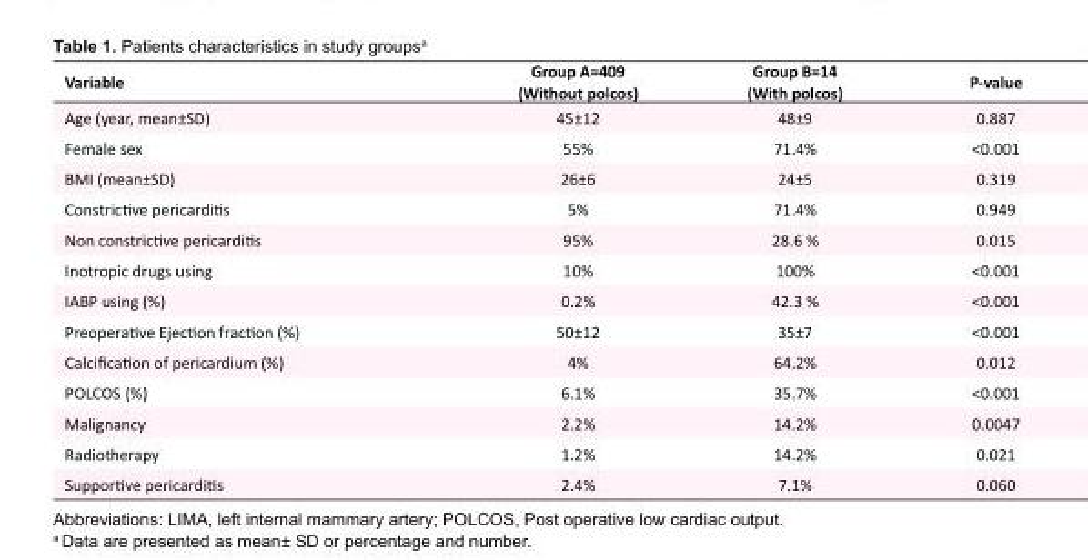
<table><tbody><tr><td>Variable</td><td>Group A=409 (Without polcos)</td><td>Group B=14 (With polcos)</td><td>P-value</td></tr><tr><td>Age (year, mean±SD)</td><td>45±12</td><td>48±9</td><td>0.887</td></tr><tr><td>Female sex</td><td>55%</td><td>71.4%</td><td>&lt;0.001</td></tr><tr><td>BMI (mean±SD)</td><td>26±6</td><td>24±5</td><td>0.319</td></tr><tr><td>Constrictive pericarditis</td><td>5%</td><td>71.4%</td><td>0.949</td></tr><tr><td>Non constrictive pericarditis</td><td>95%</td><td>28.6 %</td><td>0.015</td></tr><tr><td>Inotropic drugs using</td><td>10%</td><td>100%</td><td>&lt;0.001</td></tr><tr><td>IABP using (%)</td><td>0.2%</td><td>42.3 %</td><td>&lt;0.001</td></tr><tr><td>Preoperative Ejection fraction (%)</td><td>50±12</td><td>35±7</td><td>&lt;0.001</td></tr><tr><td>Calcification of pericardium (%)</td><td>4%</td><td>64.2%</td><td>0.012</td></tr><tr><td>POLCOS (%)</td><td>6.1%</td><td>35.7%</td><td>&lt;0.001</td></tr><tr><td>Malignancy</td><td>2.2%</td><td>14.2%</td><td>0.0047</td></tr><tr><td>Radiotherapy</td><td>1.2%</td><td>14.2%</td><td>0.021</td></tr><tr><td>Supportive pericarditis</td><td>2.4%</td><td>7.1%</td><td>0.060</td></tr></tbody></table>